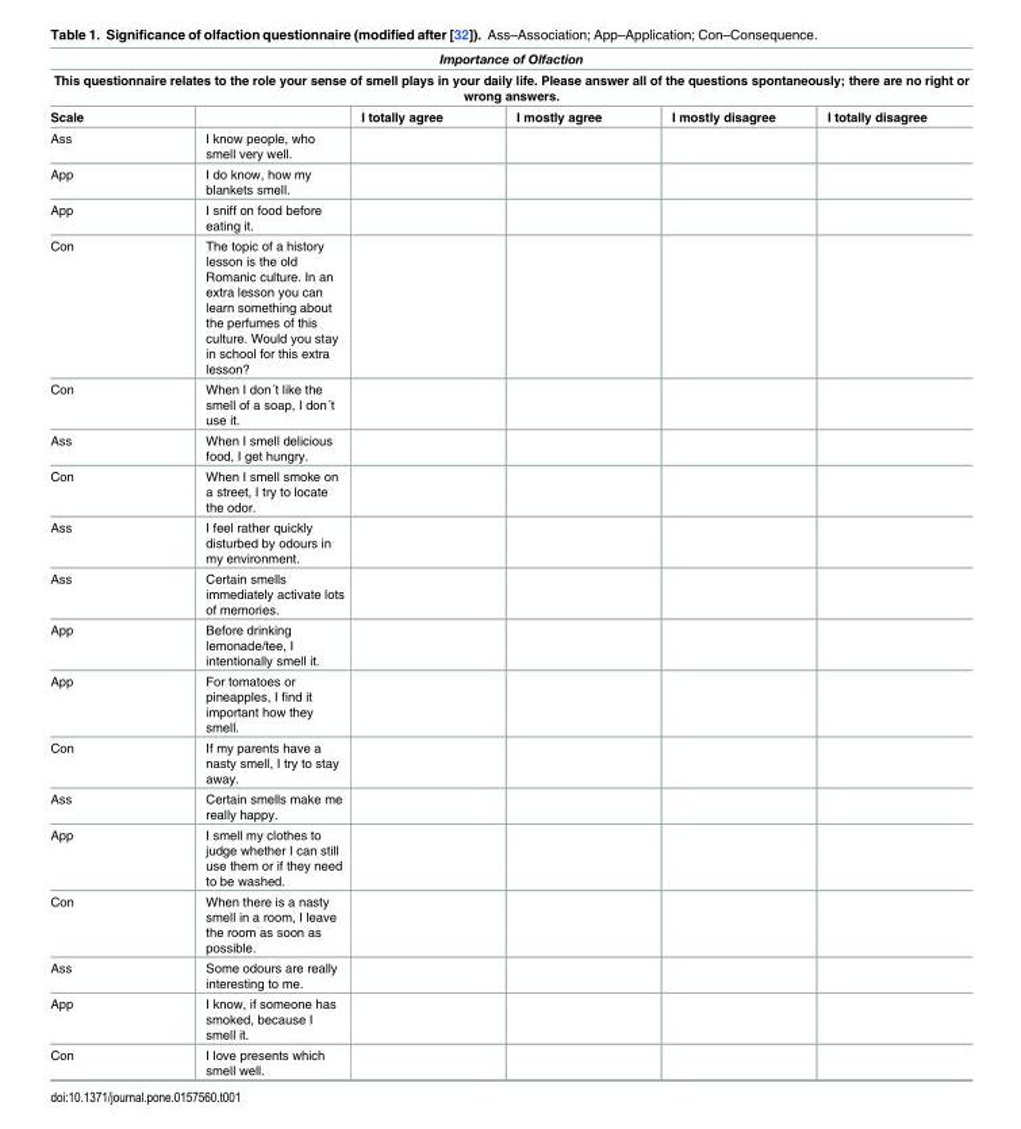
<table><thead><tr><td rowspan="2" colspan="6">Importance of Olfaction This questionnaire relates to the role your sense of smell plays in your daily life. Please answer all of the questions spontaneously; there are no right or wrong answers.</td></tr><tr></tr><tr><td>Scale</td><td></td><td>I totally agree</td><td>I mostly agree</td><td>I mostly disagree</td><td>I totally disagree</td></tr></thead><tbody><tr><td>Ass</td><td>I know people, who smell very well.</td><td></td><td></td><td></td><td></td></tr><tr><td>App</td><td>I do know, how my blankets smell.</td><td></td><td></td><td></td><td></td></tr><tr><td>App</td><td>I sniff on food before eating it.</td><td></td><td></td><td></td><td></td></tr><tr><td>Con</td><td>The topic of a history lesson is the old Romanic culture. In an extra lesson you can learn something about the perfumes of this culture. Would you stay in school for this extra lesson?</td><td></td><td></td><td></td><td></td></tr><tr><td>Con</td><td>When I don´t like the smell of a soap, I don´t use it.</td><td></td><td></td><td></td><td></td></tr><tr><td>Ass</td><td>When I smell delicious food, I get hungry.</td><td></td><td></td><td></td><td></td></tr><tr><td>Con</td><td>When I smell smoke on a street, I try to locate the odor.</td><td></td><td></td><td></td><td></td></tr><tr><td>Ass</td><td>I feel rather quickly disturbed by odours in my environment.</td><td></td><td></td><td></td><td></td></tr><tr><td>Ass</td><td>Certain smells immediately activate lots of memories.</td><td></td><td></td><td></td><td></td></tr><tr><td>App</td><td>Before drinking lemonade/tee, I intentionally smell it.</td><td></td><td></td><td></td><td></td></tr><tr><td>App</td><td>For tomatoes or pineapples, I find it important how they smell.</td><td></td><td></td><td></td><td></td></tr><tr><td>Con</td><td>If my parents have a nasty smell, I try to stay away.</td><td></td><td></td><td></td><td></td></tr><tr><td>Ass</td><td>Certain smells make me really happy.</td><td></td><td></td><td></td><td></td></tr><tr><td>App</td><td>I smell my clothes to judge whether I can still use them or if they need to be washed.</td><td></td><td></td><td></td><td></td></tr><tr><td>Con</td><td>When there is a nasty smell in a room, I leave the room as soon as possible.</td><td></td><td></td><td></td><td></td></tr><tr><td>Ass</td><td>Some odours are really interesting to me.</td><td></td><td></td><td></td><td></td></tr><tr><td>App</td><td>I know, if someone has smoked, because I smell it.</td><td></td><td></td><td></td><td></td></tr><tr><td>Con</td><td>I love presents which smell well.</td><td></td><td></td><td></td><td></td></tr></tbody></table>